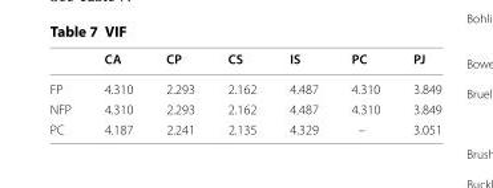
<table><thead><tr><td></td><td>CA</td><td>CP</td><td>CS</td><td>IS</td><td>PC</td><td>PJ</td></tr></thead><tbody><tr><td>FP</td><td>4.310</td><td>2.293</td><td>2.162</td><td>4.487</td><td>4.310</td><td>3.849</td></tr><tr><td>NFP</td><td>4.310</td><td>2.293</td><td>2.162</td><td>4.487</td><td>4.310</td><td>3.849</td></tr><tr><td>PC</td><td>4.187</td><td>2.241</td><td>2.135</td><td>4.329</td><td>–</td><td>3.051</td></tr></tbody></table>